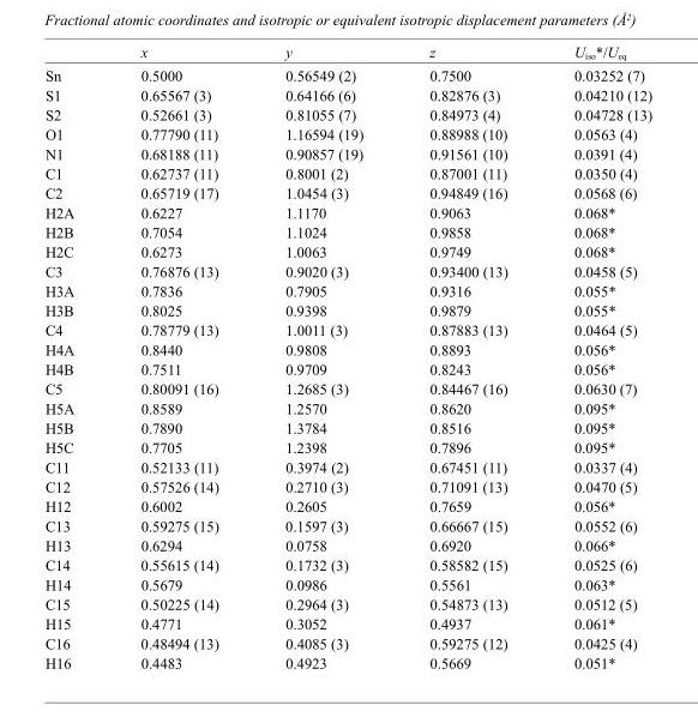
<table><thead><tr><td></td><td>x</td><td>y</td><td>z</td><td>U<sub>iso</sub>*/U<sub>eq</sub></td></tr></thead><tbody><tr><td>Sn</td><td>0.5000</td><td>0.56549 (2)</td><td>0.7500</td><td>0.03252 (7)</td></tr><tr><td>S1</td><td>0.65567 (3)</td><td>0.64166 (6)</td><td>0.82876 (3)</td><td>0.04210 (12)</td></tr><tr><td>S2</td><td>0.52661 (3)</td><td>0.81055 (7)</td><td>0.84973 (4)</td><td>0.04728 (13)</td></tr><tr><td>O1</td><td>0.77790 (11)</td><td>1.16594 (19)</td><td>0.88988 (10)</td><td>0.0563 (4)</td></tr><tr><td>N1</td><td>0.68188 (11)</td><td>0.90857 (19)</td><td>0.91561 (10)</td><td>0.0391 (4)</td></tr><tr><td>C1</td><td>0.62737 (11)</td><td>0.8001 (2)</td><td>0.87001 (11)</td><td>0.0350 (4)</td></tr><tr><td>C2</td><td>0.65719 (17)</td><td>1.0454 (3)</td><td>0.94849 (16)</td><td>0.0568 (6)</td></tr><tr><td>H2A</td><td>0.6227</td><td>1.1170</td><td>0.9063</td><td>0.068*</td></tr><tr><td>H2B</td><td>0.7054</td><td>1.1024</td><td>0.9858</td><td>0.068*</td></tr><tr><td>H2C</td><td>0.6273</td><td>1.0063</td><td>0.9749</td><td>0.068*</td></tr><tr><td>C3</td><td>0.76876 (13)</td><td>0.9020 (3)</td><td>0.93400 (13)</td><td>0.0458 (5)</td></tr><tr><td>H3A</td><td>0.7836</td><td>0.7905</td><td>0.9316</td><td>0.055*</td></tr><tr><td>H3B</td><td>0.8025</td><td>0.9398</td><td>0.9879</td><td>0.055*</td></tr><tr><td>C4</td><td>0.78779 (13)</td><td>1.0011 (3)</td><td>0.87883 (13)</td><td>0.0464 (5)</td></tr><tr><td>H4A</td><td>0.8440</td><td>0.9808</td><td>0.8893</td><td>0.056*</td></tr><tr><td>H4B</td><td>0.7511</td><td>0.9709</td><td>0.8243</td><td>0.056*</td></tr><tr><td>C5</td><td>0.80091 (16)</td><td>1.2685 (3)</td><td>0.84467 (16)</td><td>0.0630 (7)</td></tr><tr><td>H5A</td><td>0.8589</td><td>1.2570</td><td>0.8620</td><td>0.095*</td></tr><tr><td>H5B</td><td>0.7890</td><td>1.3784</td><td>0.8516</td><td>0.095*</td></tr><tr><td>H5C</td><td>0.7705</td><td>1.2398</td><td>0.7896</td><td>0.095*</td></tr><tr><td>C11</td><td>0.52133 (11)</td><td>0.3974 (2)</td><td>0.67451 (11)</td><td>0.0337 (4)</td></tr><tr><td>C12</td><td>0.57526 (14)</td><td>0.2710 (3)</td><td>0.71091 (13)</td><td>0.0470 (5)</td></tr><tr><td>H12</td><td>0.6002</td><td>0.2605</td><td>0.7659</td><td>0.056*</td></tr><tr><td>C13</td><td>0.59275 (15)</td><td>0.1597 (3)</td><td>0.66667 (15)</td><td>0.0552 (6)</td></tr><tr><td>H13</td><td>0.6294</td><td>0.0758</td><td>0.6920</td><td>0.066*</td></tr><tr><td>C14</td><td>0.55615 (14)</td><td>0.1732 (3)</td><td>0.58582 (15)</td><td>0.0525 (6)</td></tr><tr><td>H14</td><td>0.5679</td><td>0.0986</td><td>0.5561</td><td>0.063*</td></tr><tr><td>C15</td><td>0.50225 (14)</td><td>0.2964 (3)</td><td>0.54873 (13)</td><td>0.0512 (5)</td></tr><tr><td>H15</td><td>0.4771</td><td>0.3052</td><td>0.4937</td><td>0.061*</td></tr><tr><td>C16</td><td>0.48494 (13)</td><td>0.4085 (3)</td><td>0.59275 (12)</td><td>0.0425 (4)</td></tr><tr><td>H16</td><td>0.4483</td><td>0.4923</td><td>0.5669</td><td>0.051*</td></tr></tbody></table>